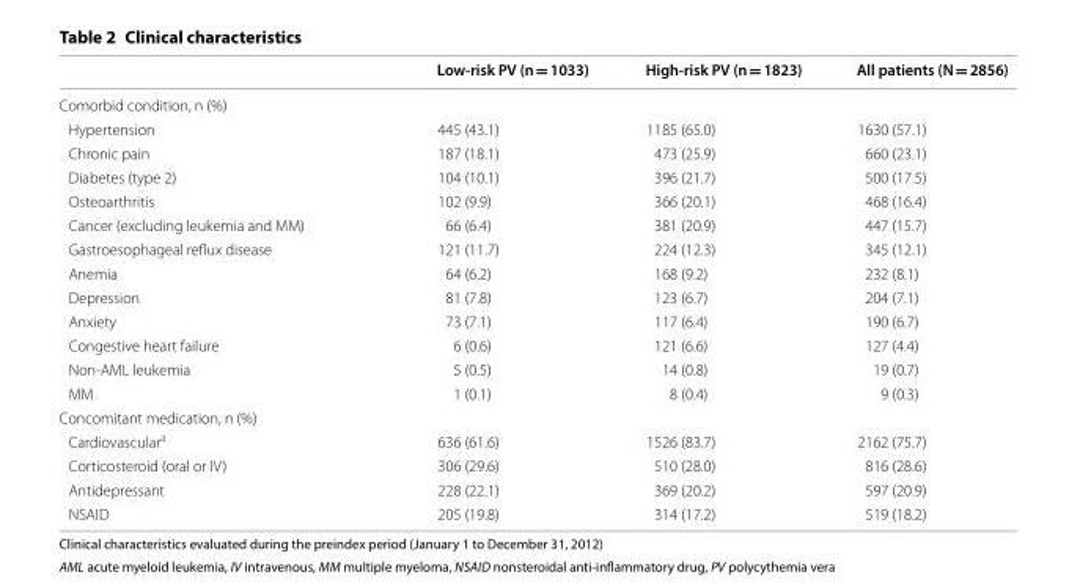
<table><thead><tr><td></td><td>Low-risk PV (n = 1033)</td><td>High-risk PV (n = 1823)</td><td>All patients (N = 2856)</td></tr></thead><tbody><tr><td colspan="4">Comorbid condition, n (%)</td></tr><tr><td>Hypertension</td><td>445 (43.1)</td><td>1185 (65.0)</td><td>1630 (57.1)</td></tr><tr><td>Chronic pain</td><td>187 (18.1)</td><td>473 (25.9)</td><td>660 (23.1)</td></tr><tr><td>Diabetes (type 2)</td><td>104 (10.1)</td><td>396 (21.7)</td><td>500 (17.5)</td></tr><tr><td>Osteoarthritis</td><td>102 (9.9)</td><td>366 (20.1)</td><td>468 (16.4)</td></tr><tr><td>Cancer (excluding leukemia and MM)</td><td>66 (6.4)</td><td>381 (20.9)</td><td>447 (15.7)</td></tr><tr><td>Gastroesophageal reflux disease</td><td>121 (11.7)</td><td>224 (12.3)</td><td>345 (12.1)</td></tr><tr><td>Anemia</td><td>64 (6.2)</td><td>168 (9.2)</td><td>232 (8.1)</td></tr><tr><td>Depression</td><td>81 (7.8)</td><td>123 (6.7)</td><td>204 (7.1)</td></tr><tr><td>Anxiety</td><td>73 (7.1)</td><td>117 (6.4)</td><td>190 (6.7)</td></tr><tr><td>Congestive heart failure</td><td>6 (0.6)</td><td>121 (6.6)</td><td>127 (4.4)</td></tr><tr><td>Non-AML leukemia</td><td>5 (0.5)</td><td>14 (0.8)</td><td>19 (0.7)</td></tr><tr><td>MM</td><td>1 (0.1)</td><td>8 (0.4)</td><td>9 (0.3)</td></tr><tr><td colspan="4">Concomitant medication, n (%)</td></tr><tr><td>Cardiovascular<sup>a</sup></td><td>636 (61.6)</td><td>1526 (83.7)</td><td>2162 (75.7)</td></tr><tr><td>Corticosteroid (oral or IV)</td><td>306 (29.6)</td><td>510 (28.0)</td><td>816 (28.6)</td></tr><tr><td>Antidepressant</td><td>228 (22.1)</td><td>369 (20.2)</td><td>597 (20.9)</td></tr><tr><td>NSAID</td><td>205 (19.8)</td><td>314 (17.2)</td><td>519 (18.2)</td></tr></tbody></table>